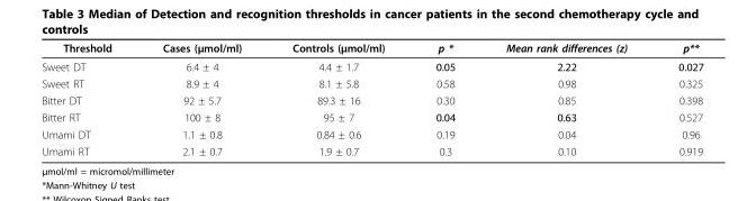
<table><thead><tr><td>Threshold</td><td>Cases (μmol/ml)</td><td>Controls (μmol/ml)</td><td>p *</td><td>Mean rank differences (z)</td><td>p**</td></tr></thead><tbody><tr><td>Sweet DT</td><td>6.4 ± 4</td><td>4.4 ± 1.7</td><td>0.05</td><td>2.22</td><td>0.027</td></tr><tr><td>Sweet RT</td><td>8.9 ± 4</td><td>8.1 ± 5.8</td><td>0.58</td><td>0.98</td><td>0.325</td></tr><tr><td>Bitter DT</td><td>92 ± 5.7</td><td>89.3 ± 16</td><td>0.30</td><td>0.85</td><td>0.398</td></tr><tr><td>Bitter RT</td><td>100 ± 8</td><td>95 ± 7</td><td>0.04</td><td>0.63</td><td>0.527</td></tr><tr><td>Umami DT</td><td>1.1 ± 0.8</td><td>0.84 ± 0.6</td><td>0.19</td><td>0.04</td><td>0.96</td></tr><tr><td>Umami RT</td><td>2.1 ± 0.7</td><td>1.9 ± 0.7</td><td>0.3</td><td>0.10</td><td>0.919</td></tr></tbody></table>